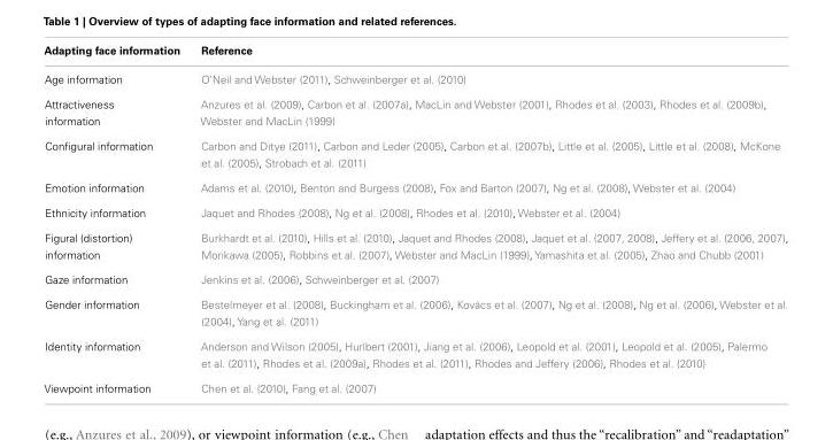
<table><thead><tr><td>Adapting face information</td><td>Reference</td></tr></thead><tbody><tr><td>Age information</td><td>O’Neil and Webster (2011), Schweinberger et al. (2010)</td></tr><tr><td>Attractiveness information</td><td>Anzures et al. (2009), Carbon et al. (2007a), MacLin and Webster (2001), Rhodes et al. (2003), Rhodes et al. (2009b), Webster and MacLin (1999)</td></tr><tr><td>Configural information</td><td>Carbon and Ditye (2011), Carbon and Leder (2005), Carbon et al. (2007b), Little et al. (2005), Little et al. (2008), McKone et al. (2005), Strobach et al. (2011)</td></tr><tr><td>Emotion information</td><td>Adams et al. (2010), Benton and Burgess (2008), Fox and Barton (2007), Ng et al. (2008), Webster et al. (2004)</td></tr><tr><td>Ethnicity information</td><td>Jaquet and Rhodes (2008), Ng et al. (2008), Rhodes et al. (2010), Webster et al. (2004)</td></tr><tr><td>Figural (distortion) information</td><td>Burkhardt et al. (2010), Hills et al. (2010), Jaquet and Rhodes (2008), Jaquet et al. (2007, 2008), Jeffery et al. (2006, 2007), Morikawa (2005), Robbins et al. (2007), Webster and MacLin (1999), Yamashita et al. (2005), Zhao and Chubb (2001)</td></tr><tr><td>Gaze information</td><td>Jenkins et al. (2006), Schweinberger et al. (2007)</td></tr><tr><td>Gender information</td><td>Bestelmeyer et al. (2008), Buckingham et al. (2006), Kovács et al. (2007), Ng et al. (2008), Ng et al. (2006), Webster et al. (2004), Yang et al. (2011)</td></tr><tr><td>Identity information</td><td>Anderson and Wilson (2005), Hurlbert (2001), Jiang et al. (2006), Leopold et al. (2001), Leopold et al. (2005), Palermo et al. (2011), Rhodes et al. (2009a), Rhodes et al. (2011), Rhodes and Jeffery (2006), Rhodes et al. (2010)</td></tr><tr><td>Viewpoint information</td><td>Chen et al. (2010), Fang et al. (2007)</td></tr></tbody></table>